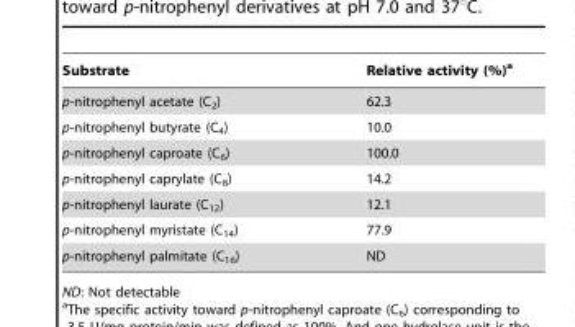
<table><thead><tr><td>Substrate</td><td>Relative activity (%)<sup>a</sup></td></tr></thead><tbody><tr><td>p-nitrophenyl acetate (C<sub>2</sub>)</td><td>62.3</td></tr><tr><td>p-nitrophenyl butyrate (C<sub>4</sub>)</td><td>10.0</td></tr><tr><td>p-nitrophenyl caproate (C<sub>6</sub>)</td><td>100.0</td></tr><tr><td>p-nitrophenyl caprylate (C<sub>8</sub>)</td><td>14.2</td></tr><tr><td>p-nitrophenyl laurate (C<sub>12</sub>)</td><td>12.1</td></tr><tr><td>p-nitrophenyl myristate (C<sub>14</sub>)</td><td>77.9</td></tr><tr><td>p-nitrophenyl palmitate (C<sub>16</sub>)</td><td>ND</td></tr></tbody></table>